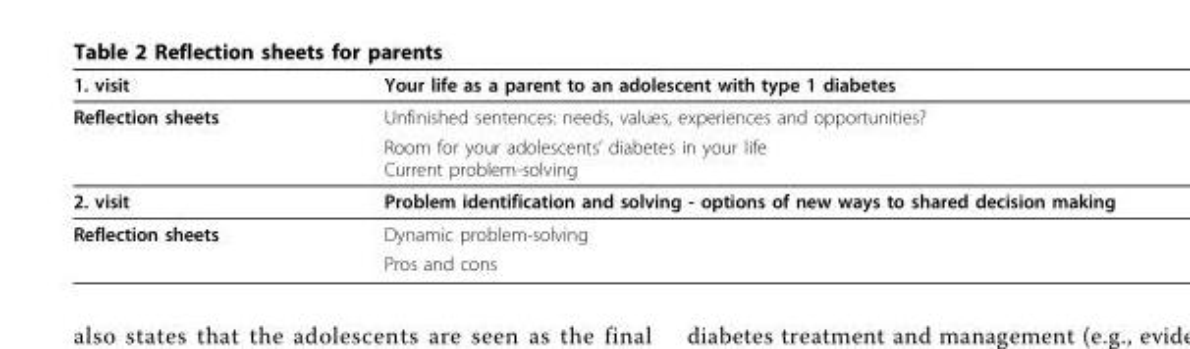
<table><thead><tr><td>1. visit</td><td>Your life as a parent to an adolescent with type 1 diabetes</td></tr></thead><tbody><tr><td rowspan="2">Reflection sheets</td><td>Unfinished sentences: needs, values, experiences and opportunities?</td></tr><tr><td>Room for your adolescents’ diabetes in your life Current problem-solving</td></tr><tr><td>2. visit</td><td>Problem identification and solving - options of new ways to shared decision making</td></tr><tr><td rowspan="2">Reflection sheets</td><td>Dynamic problem-solving</td></tr><tr><td>Pros and cons</td></tr></tbody></table>